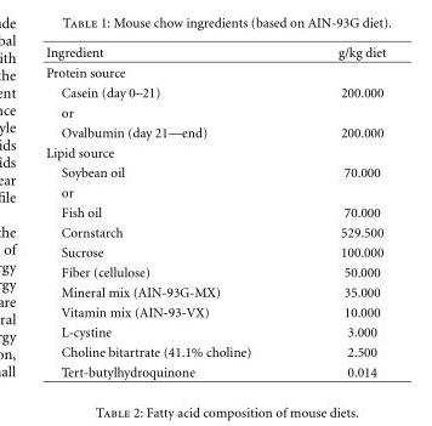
<table><thead><tr><td>Ingredient</td><td>g/kg diet</td></tr></thead><tbody><tr><td colspan="2">Protein source</td></tr><tr><td>Casein (day 0–21)</td><td>200.000</td></tr><tr><td colspan="2">or</td></tr><tr><td>Ovalbumin (day 21—end)</td><td>200.000</td></tr><tr><td colspan="2">Lipid source</td></tr><tr><td>Soybean oil</td><td>70.000</td></tr><tr><td colspan="2">or</td></tr><tr><td>Fish oil</td><td>70.000</td></tr><tr><td>Cornstarch</td><td>529.500</td></tr><tr><td>Sucrose</td><td>100.000</td></tr><tr><td>Fiber (cellulose)</td><td>50.000</td></tr><tr><td>Mineral mix (AIN-93G-MX)</td><td>35.000</td></tr><tr><td>Vitamin mix (AIN-93-VX)</td><td>10.000</td></tr><tr><td>L-cystine</td><td>3.000</td></tr><tr><td>Choline bitartrate (41.1% choline)</td><td>2.500</td></tr><tr><td>Tert-butylhydroquinone</td><td>0.014</td></tr></tbody></table>